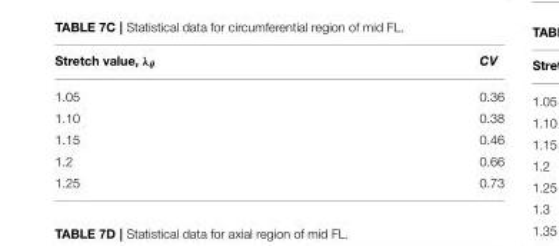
<table><thead><tr><td>Stretch value, λ<sub>θ</sub></td><td>CV</td></tr></thead><tbody><tr><td>1.05</td><td>0.36</td></tr><tr><td>1.10</td><td>0.38</td></tr><tr><td>1.15</td><td>0.46</td></tr><tr><td>1.2</td><td>0.66</td></tr><tr><td>1.25</td><td>0.73</td></tr></tbody></table>